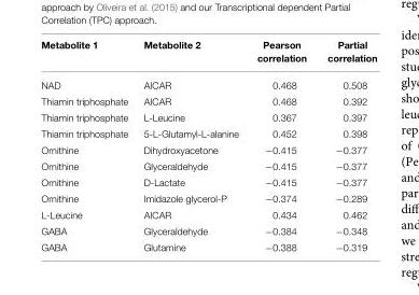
<table><thead><tr><td>Metabolite 1</td><td>Metabolite 2</td><td>Pearson correlation</td><td>Partial correlation</td></tr></thead><tbody><tr><td>NAD</td><td>AICAR</td><td>0.468</td><td>0.508</td></tr><tr><td>Thiamin triphosphate</td><td>AICAR</td><td>0.468</td><td>0.392</td></tr><tr><td>Thiamin triphosphate</td><td>L-Leucine</td><td>0.367</td><td>0.397</td></tr><tr><td>Thiamin triphosphate</td><td>5-L-Glutamyl-L-alanine</td><td>0.452</td><td>0.398</td></tr><tr><td>Ornithine</td><td>Dihydroxyacetone</td><td>−0.415</td><td>−0.377</td></tr><tr><td>Ornithine</td><td>Glyceraldehyde</td><td>−0.415</td><td>−0.377</td></tr><tr><td>Ornithine</td><td>D-Lactate</td><td>−0.415</td><td>−0.377</td></tr><tr><td>Ornithine</td><td>Imidazole glycerol-P</td><td>−0.374</td><td>−0.289</td></tr><tr><td>L-Leucine</td><td>AICAR</td><td>0.434</td><td>0.462</td></tr><tr><td>GABA</td><td>Glyceraldehyde</td><td>−0.384</td><td>−0.348</td></tr><tr><td>GABA</td><td>Glutamine</td><td>−0.388</td><td>−0.319</td></tr></tbody></table>